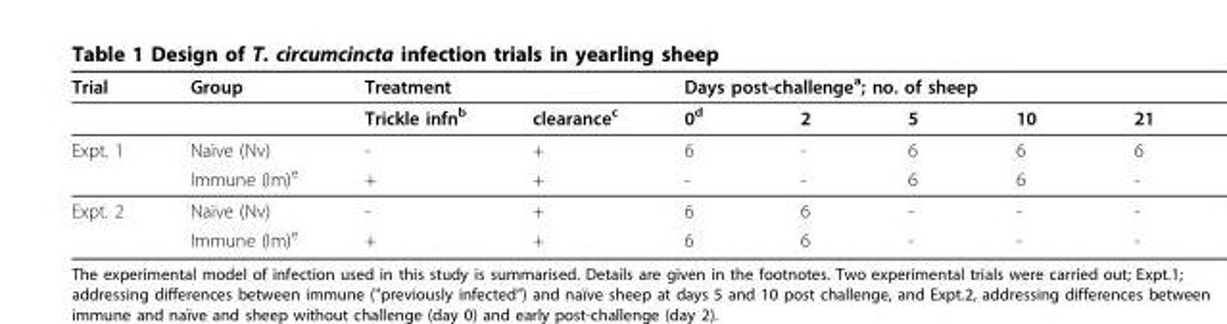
<table><thead><tr><td rowspan="2">Trial</td><td rowspan="2">Group</td><td colspan="2">Treatment</td><td colspan="5">Days post-challenge<sup>a</sup>; no. of sheep</td></tr><tr><td>Trickle infn<sup>b</sup></td><td>clearance<sup>c</sup></td><td>0<sup>d</sup></td><td>2</td><td>5</td><td>10</td><td>21</td></tr></thead><tbody><tr><td rowspan="2">Expt. 1</td><td>Naïve (Nv)</td><td>-</td><td>+</td><td>6</td><td>-</td><td>6</td><td>6</td><td>6</td></tr><tr><td>Immune (Im)<sup>e</sup></td><td>+</td><td>+</td><td>-</td><td>-</td><td>6</td><td>6</td><td>-</td></tr><tr><td rowspan="2">Expt. 2</td><td>Naïve (Nv)</td><td>-</td><td>+</td><td>6</td><td>6</td><td>-</td><td>-</td><td>-</td></tr><tr><td>Immune (Im)<sup>e</sup></td><td>+</td><td>+</td><td>6</td><td>6</td><td>-</td><td>-</td><td>-</td></tr></tbody></table>